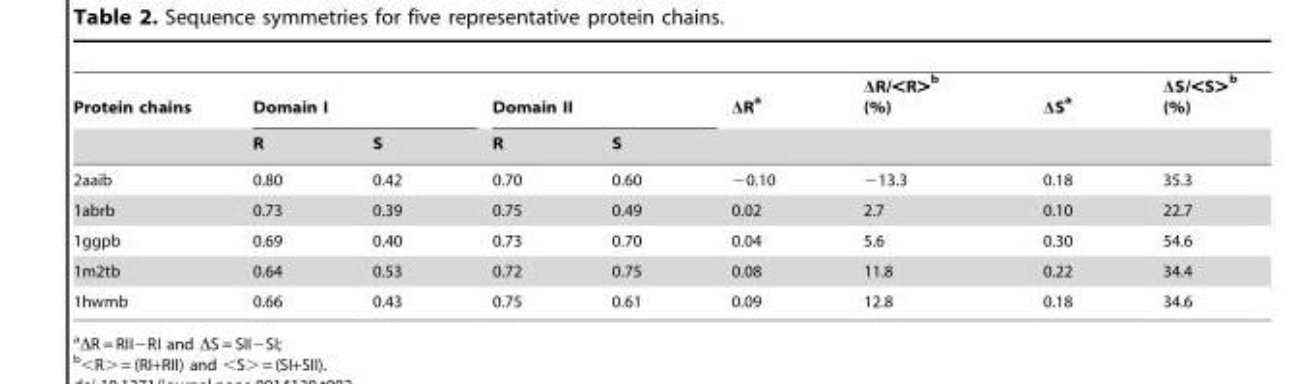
<table><thead><tr><td rowspan="2">Protein chains</td><td colspan="2">Domain I</td><td colspan="2">Domain II</td><td rowspan="2">ΔR <sup>a</sup></td><td rowspan="2">ΔR/&lt;R&gt; <sup>b</sup> (%)</td><td rowspan="2">ΔS <sup>a</sup></td><td rowspan="2">ΔS/&lt;S&gt; <sup>b</sup> (%)</td></tr><tr><td>R</td><td>S</td><td>R</td><td>S</td></tr></thead><tbody><tr><td>2aaib</td><td>0.80</td><td>0.42</td><td>0.70</td><td>0.60</td><td>−0.10</td><td>−13.3</td><td>0.18</td><td>35.3</td></tr><tr><td>1abrb</td><td>0.73</td><td>0.39</td><td>0.75</td><td>0.49</td><td>0.02</td><td>2.7</td><td>0.10</td><td>22.7</td></tr><tr><td>1ggpb</td><td>0.69</td><td>0.40</td><td>0.73</td><td>0.70</td><td>0.04</td><td>5.6</td><td>0.30</td><td>54.6</td></tr><tr><td>1m2tb</td><td>0.64</td><td>0.53</td><td>0.72</td><td>0.75</td><td>0.08</td><td>11.8</td><td>0.22</td><td>34.4</td></tr><tr><td>1hwmb</td><td>0.66</td><td>0.43</td><td>0.75</td><td>0.61</td><td>0.09</td><td>12.8</td><td>0.18</td><td>34.6</td></tr></tbody></table>